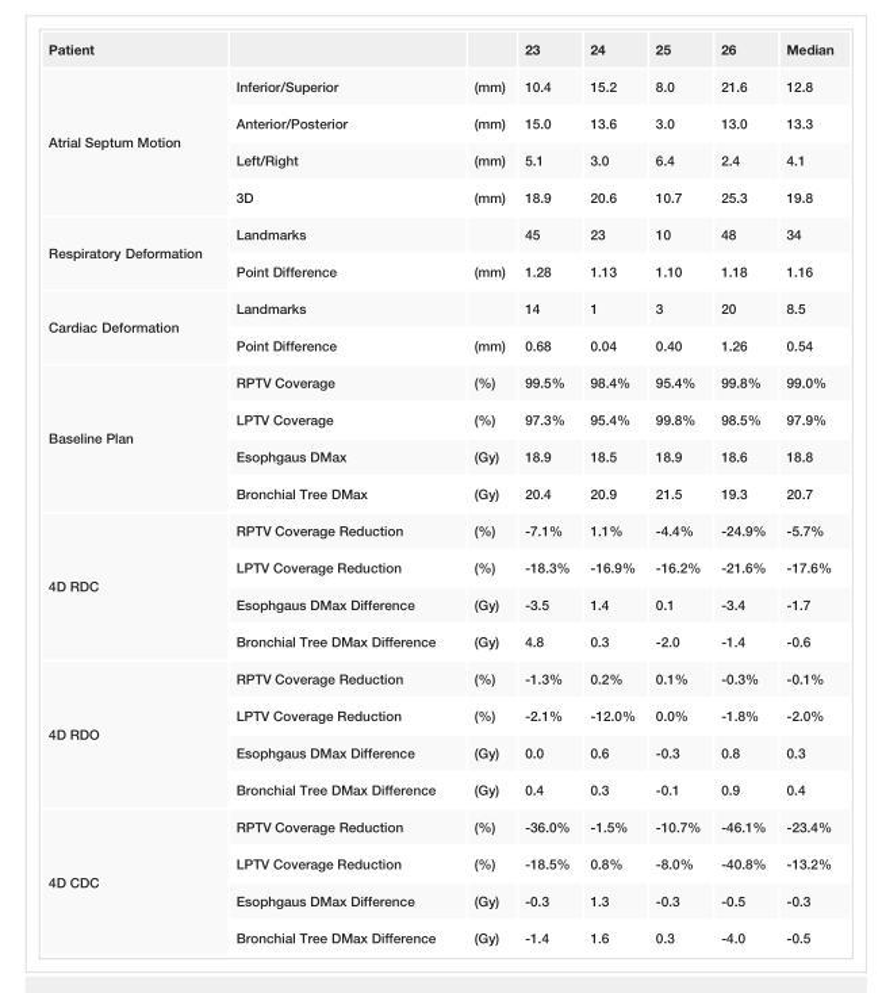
<table><tbody><tr><td>Patient</td><td></td><td></td><td>23</td><td>24</td><td>25</td><td>26</td><td>Median</td></tr><tr><td rowspan="4">Atrial Septum Motion</td><td>Inferior/Superior</td><td>(mm)</td><td>10.4</td><td>15.2</td><td>8.0</td><td>21.6</td><td>12.8</td></tr><tr><td>Anterior/Posterior</td><td>(mm)</td><td>15.0</td><td>13.6</td><td>3.0</td><td>13.0</td><td>13.3</td></tr><tr><td>Left/Right</td><td>(mm)</td><td>5.1</td><td>3.0</td><td>6.4</td><td>2.4</td><td>4.1</td></tr><tr><td>3D</td><td>(mm)</td><td>18.9</td><td>20.6</td><td>10.7</td><td>25.3</td><td>19.8</td></tr><tr><td rowspan="2">Respiratory Deformation</td><td>Landmarks</td><td></td><td>45</td><td>23</td><td>10</td><td>48</td><td>34</td></tr><tr><td>Point Difference</td><td>(mm)</td><td>1.28</td><td>1.13</td><td>1.10</td><td>1.18</td><td>1.16</td></tr><tr><td rowspan="2">Cardiac Deformation</td><td>Landmarks</td><td></td><td>14</td><td>1</td><td>3</td><td>20</td><td>8.5</td></tr><tr><td>Point Difference</td><td>(mm)</td><td>0.68</td><td>0.04</td><td>0.40</td><td>1.26</td><td>0.54</td></tr><tr><td rowspan="4">Baseline Plan</td><td>RPTV Coverage</td><td>(%)</td><td>99.5%</td><td>98.4%</td><td>95.4%</td><td>99.8%</td><td>99.0%</td></tr><tr><td>LPTV Coverage</td><td>(%)</td><td>97.3%</td><td>95.4%</td><td>99.8%</td><td>98.5%</td><td>97.9%</td></tr><tr><td>Esophgaus DMax</td><td>(Gy)</td><td>18.9</td><td>18.5</td><td>18.9</td><td>18.6</td><td>18.8</td></tr><tr><td>Bronchial Tree DMax</td><td>(Gy)</td><td>20.4</td><td>20.9</td><td>21.5</td><td>19.3</td><td>20.7</td></tr><tr><td rowspan="4">4D RDC</td><td>RPTV Coverage Reduction</td><td>(%)</td><td>-7.1%</td><td>1.1%</td><td>-4.4%</td><td>-24.9%</td><td>-5.7%</td></tr><tr><td>LPTV Coverage Reduction</td><td>(%)</td><td>-18.3%</td><td>-16.9%</td><td>-16.2%</td><td>-21.6%</td><td>-17.6%</td></tr><tr><td>Esophgaus DMax Difference</td><td>(Gy)</td><td>-3.5</td><td>1.4</td><td>0.1</td><td>-3.4</td><td>-1.7</td></tr><tr><td>Bronchial Tree DMax Difference</td><td>(Gy)</td><td>4.8</td><td>0.3</td><td>-2.0</td><td>-1.4</td><td>-0.6</td></tr><tr><td rowspan="4">4D RDO</td><td>RPTV Coverage Reduction</td><td>(%)</td><td>-1.3%</td><td>0.2%</td><td>0.1%</td><td>-0.3%</td><td>-0.1%</td></tr><tr><td>LPTV Coverage Reduction</td><td>(%)</td><td>-2.1%</td><td>-12.0%</td><td>0.0%</td><td>-1.8%</td><td>-2.0%</td></tr><tr><td>Esophgaus DMax Difference</td><td>(Gy)</td><td>0.0</td><td>0.6</td><td>-0.3</td><td>0.8</td><td>0.3</td></tr><tr><td>Bronchial Tree DMax Difference</td><td>(Gy)</td><td>0.4</td><td>0.3</td><td>-0.1</td><td>0.9</td><td>0.4</td></tr><tr><td rowspan="4">4D CDC</td><td>RPTV Coverage Reduction</td><td>(%)</td><td>-36.0%</td><td>-1.5%</td><td>-10.7%</td><td>-46.1%</td><td>-23.4%</td></tr><tr><td>LPTV Coverage Reduction</td><td>(%)</td><td>-18.5%</td><td>0.8%</td><td>-8.0%</td><td>-40.8%</td><td>-13.2%</td></tr><tr><td>Esophgaus DMax Difference</td><td>(Gy)</td><td>-0.3</td><td>1.3</td><td>-0.3</td><td>-0.5</td><td>-0.3</td></tr><tr><td>Bronchial Tree DMax Difference</td><td>(Gy)</td><td>-1.4</td><td>1.6</td><td>0.3</td><td>-4.0</td><td>-0.5</td></tr></tbody></table>